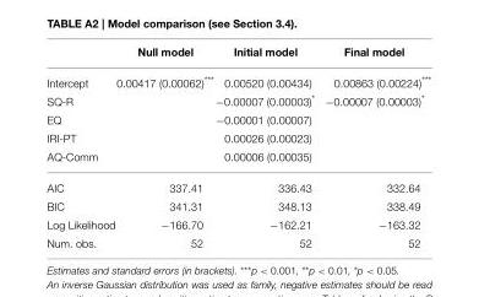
<table><thead><tr><td></td><td>Null model</td><td>Initial model</td><td>Final model</td></tr></thead><tbody><tr><td>Intercept</td><td>0.00417 (0.00062)***</td><td>0.00520 (0.00434)</td><td>0.00863 (0.00224)***</td></tr><tr><td>SQ-R</td><td></td><td>−0.00007 (0.00003)*</td><td>−0.00007 (0.00003)*</td></tr><tr><td>EQ</td><td></td><td>−0.00001 (0.00007)</td><td></td></tr><tr><td>IRI-PT</td><td></td><td>0.00026 (0.00023)</td><td></td></tr><tr><td>AQ-Comm</td><td></td><td>0.00006 (0.00035)</td><td></td></tr><tr><td>AIC</td><td>337.41</td><td>336.43</td><td>332.64</td></tr><tr><td>BIC</td><td>341.31</td><td>348.13</td><td>338.49</td></tr><tr><td>Log Likelihood</td><td>−166.70</td><td>−162.21</td><td>−163.32</td></tr><tr><td>Num. obs.</td><td>52</td><td>52</td><td>52</td></tr></tbody></table>